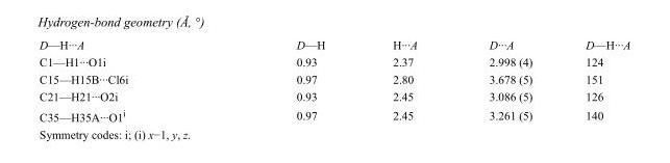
<table><tbody><tr><td>D—H···A</td><td>D—H</td><td>H···A</td><td>D···A</td><td>D—H···A</td></tr><tr><td>C1—H1···O1i</td><td>0.93</td><td>2.37</td><td>2.998 (4)</td><td>124</td></tr><tr><td>C15—H15B···Cl6i</td><td>0.97</td><td>2.80</td><td>3.678 (5)</td><td>151</td></tr><tr><td>C21—H21···O2i</td><td>0.93</td><td>2.45</td><td>3.086 (5)</td><td>126</td></tr><tr><td>C35—H35A···O1<sup>i</sup></td><td>0.97</td><td>2.45</td><td>3.261 (5)</td><td>140</td></tr></tbody></table>